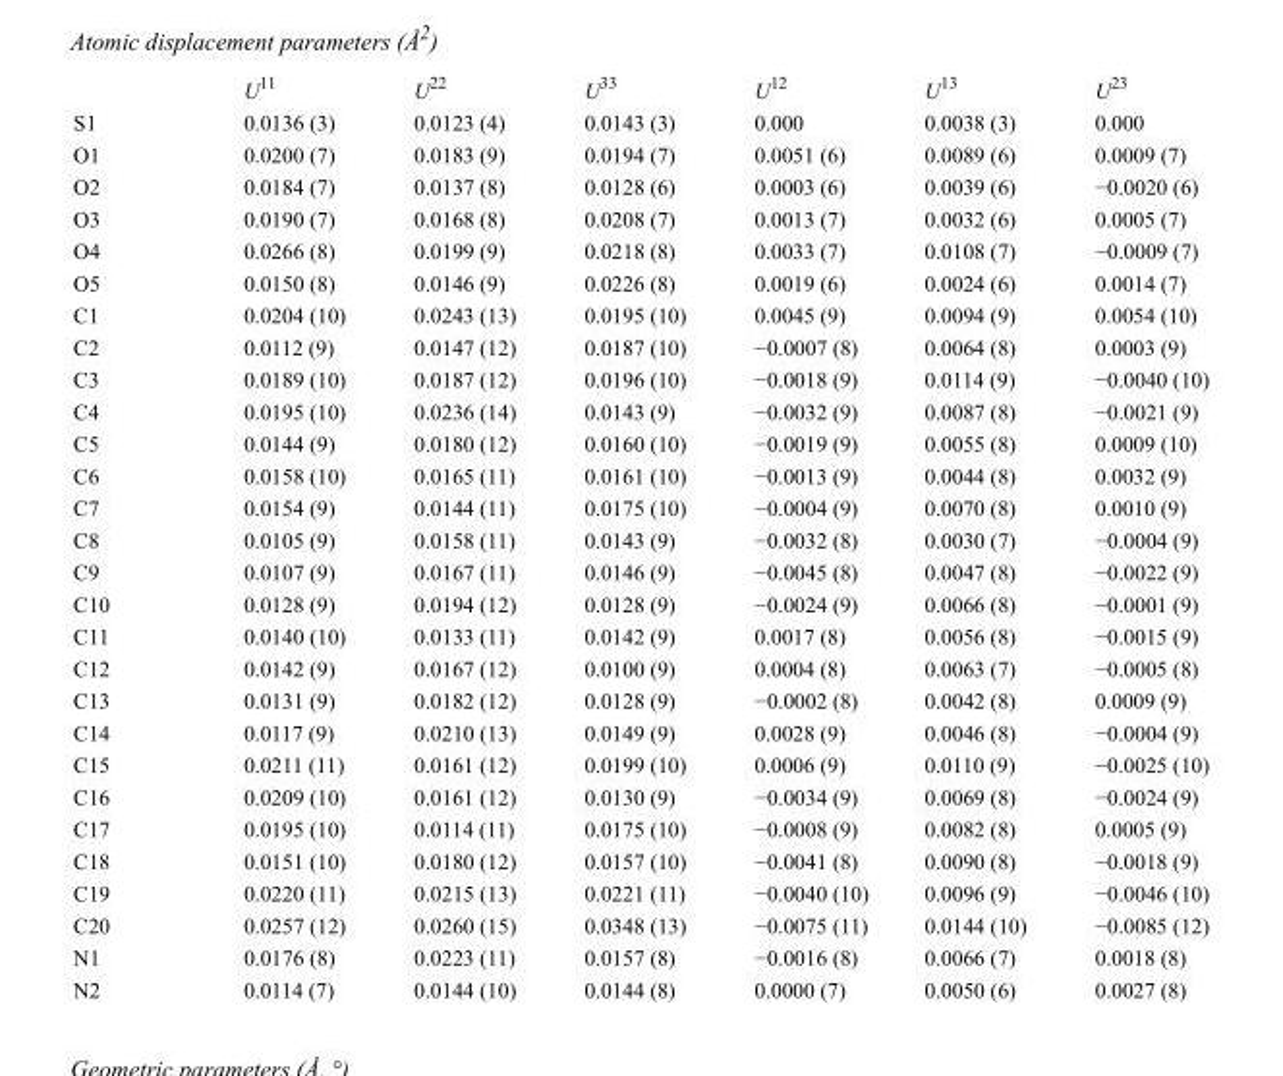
<table><thead><tr><td></td><td>U<sup>11</sup></td><td>U<sup>22</sup></td><td>U<sup>33</sup></td><td>U<sup>12</sup></td><td>U<sup>13</sup></td><td>U<sup>23</sup></td></tr></thead><tbody><tr><td>S1</td><td>0.0136 (3)</td><td>0.0123 (4)</td><td>0.0143 (3)</td><td>0.000</td><td>0.0038 (3)</td><td>0.000</td></tr><tr><td>O1</td><td>0.0200 (7)</td><td>0.0183 (9)</td><td>0.0194 (7)</td><td>0.0051 (6)</td><td>0.0089 (6)</td><td>0.0009 (7)</td></tr><tr><td>O2</td><td>0.0184 (7)</td><td>0.0137 (8)</td><td>0.0128 (6)</td><td>0.0003 (6)</td><td>0.0039 (6)</td><td>−0.0020 (6)</td></tr><tr><td>O3</td><td>0.0190 (7)</td><td>0.0168 (8)</td><td>0.0208 (7)</td><td>0.0013 (7)</td><td>0.0032 (6)</td><td>0.0005 (7)</td></tr><tr><td>O4</td><td>0.0266 (8)</td><td>0.0199 (9)</td><td>0.0218 (8)</td><td>0.0033 (7)</td><td>0.0108 (7)</td><td>−0.0009 (7)</td></tr><tr><td>O5</td><td>0.0150 (8)</td><td>0.0146 (9)</td><td>0.0226 (8)</td><td>0.0019 (6)</td><td>0.0024 (6)</td><td>0.0014 (7)</td></tr><tr><td>C1</td><td>0.0204 (10)</td><td>0.0243 (13)</td><td>0.0195 (10)</td><td>0.0045 (9)</td><td>0.0094 (9)</td><td>0.0054 (10)</td></tr><tr><td>C2</td><td>0.0112 (9)</td><td>0.0147 (12)</td><td>0.0187 (10)</td><td>−0.0007 (8)</td><td>0.0064 (8)</td><td>0.0003 (9)</td></tr><tr><td>C3</td><td>0.0189 (10)</td><td>0.0187 (12)</td><td>0.0196 (10)</td><td>−0.0018 (9)</td><td>0.0114 (9)</td><td>−0.0040 (10)</td></tr><tr><td>C4</td><td>0.0195 (10)</td><td>0.0236 (14)</td><td>0.0143 (9)</td><td>−0.0032 (9)</td><td>0.0087 (8)</td><td>−0.0021 (9)</td></tr><tr><td>C5</td><td>0.0144 (9)</td><td>0.0180 (12)</td><td>0.0160 (10)</td><td>−0.0019 (9)</td><td>0.0055 (8)</td><td>0.0009 (10)</td></tr><tr><td>C6</td><td>0.0158 (10)</td><td>0.0165 (11)</td><td>0.0161 (10)</td><td>−0.0013 (9)</td><td>0.0044 (8)</td><td>0.0032 (9)</td></tr><tr><td>C7</td><td>0.0154 (9)</td><td>0.0144 (11)</td><td>0.0175 (10)</td><td>−0.0004 (9)</td><td>0.0070 (8)</td><td>0.0010 (9)</td></tr><tr><td>C8</td><td>0.0105 (9)</td><td>0.0158 (11)</td><td>0.0143 (9)</td><td>−0.0032 (8)</td><td>0.0030 (7)</td><td>−0.0004 (9)</td></tr><tr><td>C9</td><td>0.0107 (9)</td><td>0.0167 (11)</td><td>0.0146 (9)</td><td>−0.0045 (8)</td><td>0.0047 (8)</td><td>−0.0022 (9)</td></tr><tr><td>C10</td><td>0.0128 (9)</td><td>0.0194 (12)</td><td>0.0128 (9)</td><td>−0.0024 (9)</td><td>0.0066 (8)</td><td>−0.0001 (9)</td></tr><tr><td>C11</td><td>0.0140 (10)</td><td>0.0133 (11)</td><td>0.0142 (9)</td><td>0.0017 (8)</td><td>0.0056 (8)</td><td>−0.0015 (9)</td></tr><tr><td>C12</td><td>0.0142 (9)</td><td>0.0167 (12)</td><td>0.0100 (9)</td><td>0.0004 (8)</td><td>0.0063 (7)</td><td>−0.0005 (8)</td></tr><tr><td>C13</td><td>0.0131 (9)</td><td>0.0182 (12)</td><td>0.0128 (9)</td><td>−0.0002 (8)</td><td>0.0042 (8)</td><td>0.0009 (9)</td></tr><tr><td>C14</td><td>0.0117 (9)</td><td>0.0210 (13)</td><td>0.0149 (9)</td><td>0.0028 (9)</td><td>0.0046 (8)</td><td>−0.0004 (9)</td></tr><tr><td>C15</td><td>0.0211 (11)</td><td>0.0161 (12)</td><td>0.0199 (10)</td><td>0.0006 (9)</td><td>0.0110 (9)</td><td>−0.0025 (10)</td></tr><tr><td>C16</td><td>0.0209 (10)</td><td>0.0161 (12)</td><td>0.0130 (9)</td><td>−0.0034 (9)</td><td>0.0069 (8)</td><td>−0.0024 (9)</td></tr><tr><td>C17</td><td>0.0195 (10)</td><td>0.0114 (11)</td><td>0.0175 (10)</td><td>−0.0008 (9)</td><td>0.0082 (8)</td><td>0.0005 (9)</td></tr><tr><td>C18</td><td>0.0151 (10)</td><td>0.0180 (12)</td><td>0.0157 (10)</td><td>−0.0041 (8)</td><td>0.0090 (8)</td><td>−0.0018 (9)</td></tr><tr><td>C19</td><td>0.0220 (11)</td><td>0.0215 (13)</td><td>0.0221 (11)</td><td>−0.0040 (10)</td><td>0.0096 (9)</td><td>−0.0046 (10)</td></tr><tr><td>C20</td><td>0.0257 (12)</td><td>0.0260 (15)</td><td>0.0348 (13)</td><td>−0.0075 (11)</td><td>0.0144 (10)</td><td>−0.0085 (12)</td></tr><tr><td>N1</td><td>0.0176 (8)</td><td>0.0223 (11)</td><td>0.0157 (8)</td><td>−0.0016 (8)</td><td>0.0066 (7)</td><td>0.0018 (8)</td></tr><tr><td>N2</td><td>0.0114 (7)</td><td>0.0144 (10)</td><td>0.0144 (8)</td><td>0.0000 (7)</td><td>0.0050 (6)</td><td>0.0027 (8)</td></tr></tbody></table>